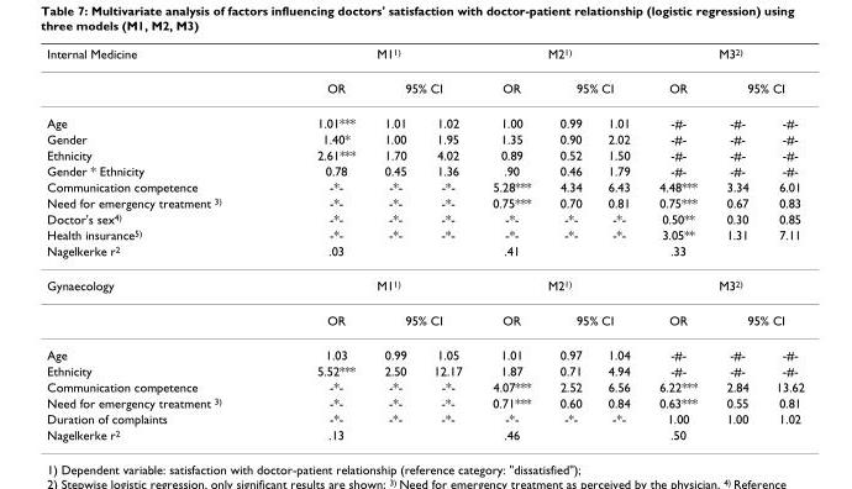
<table><thead><tr><td rowspan="3">Internal Medicine Age</td><td colspan="3">M11)</td><td colspan="3">M21)</td><td colspan="3">M32)</td></tr><tr><td rowspan="2">OR 1.01***</td><td colspan="2">95% CI</td><td rowspan="2">OR 1.00</td><td colspan="2">95% CI</td><td rowspan="2">OR -#-</td><td colspan="2">95% CI</td></tr><tr><td>1.01</td><td>1.02</td><td>0.99</td><td>1.01</td><td>-#-</td><td>-#-</td></tr></thead><tbody><tr><td>Gender</td><td>1.40*</td><td>1.00</td><td>1.95</td><td>1.35</td><td>0.90</td><td>2.02</td><td>-#-</td><td>-#-</td><td>-#-</td></tr><tr><td>Ethnicity</td><td>2.61***</td><td>1.70</td><td>4.02</td><td>0.89</td><td>0.52</td><td>1.50</td><td>-#-</td><td>-#-</td><td>-#-</td></tr><tr><td>Gender * Ethnicity</td><td>0.78</td><td>0.45</td><td>1.36</td><td>.90</td><td>0.46</td><td>1.79</td><td>-#-</td><td>-#-</td><td>-#-</td></tr><tr><td>Communication competence</td><td>-*-</td><td>-*-</td><td>-*-</td><td>5.28***</td><td>4.34</td><td>6.43</td><td>4.48***</td><td>3.34</td><td>6.01</td></tr><tr><td>Need for emergency treatment 3)</td><td>-*-</td><td>-*-</td><td>-*-</td><td>0.75***</td><td>0.70</td><td>0.81</td><td>0.75***</td><td>0.67</td><td>0.83</td></tr><tr><td>Doctor&#x27;s sex4)</td><td>-*-</td><td>-*-</td><td>-*-</td><td>-*-</td><td>-*-</td><td>-*-</td><td>0.50**</td><td>0.30</td><td>0.85</td></tr><tr><td>Health insurance5)</td><td>-*-</td><td>-*-</td><td>-*-</td><td>-*-</td><td>-*-</td><td>-*-</td><td>3.05**</td><td>1.31</td><td>7.11</td></tr><tr><td>Nagelkerke r2</td><td>.03</td><td></td><td></td><td>.41</td><td></td><td></td><td>.33</td><td></td><td></td></tr><tr><td rowspan="2">Gynaecology</td><td colspan="3">M11)</td><td colspan="3">M21)</td><td colspan="3">M32)</td></tr><tr><td>OR</td><td colspan="2">95% CI</td><td>OR</td><td colspan="2">95% CI</td><td>OR</td><td colspan="2">95% CI</td></tr><tr><td>Age</td><td>1.03</td><td>0.99</td><td>1.05</td><td>1.01</td><td>0.97</td><td>1.04</td><td>-#-</td><td>-#-</td><td>-#-</td></tr><tr><td>Ethnicity</td><td>5.52***</td><td>2.50</td><td>12.17</td><td>1.87</td><td>0.71</td><td>4.94</td><td>-#-</td><td>-#-</td><td>-#-</td></tr><tr><td>Communication competence</td><td>-*-</td><td>-*-</td><td>-*-</td><td>4.07***</td><td>2.52</td><td>6.56</td><td>6.22***</td><td>2.84</td><td>13.62</td></tr><tr><td>Need for emergency treatment 3)</td><td>-*-</td><td>-*-</td><td>-*-</td><td>0.71***</td><td>0.60</td><td>0.84</td><td>0.63***</td><td>0.55</td><td>0.81</td></tr><tr><td>Duration of complaints</td><td>-*-</td><td>-*-</td><td>-*-</td><td>-*-</td><td>-*-</td><td>-*-</td><td>1.00</td><td>1.00</td><td>1.02</td></tr><tr><td>Nagelkerke r2</td><td>.13</td><td></td><td></td><td>.46</td><td></td><td></td><td>.50</td><td></td><td></td></tr></tbody></table>